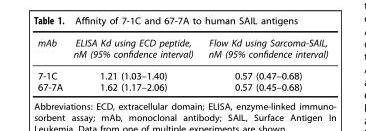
<table><thead><tr><td>mAb</td><td>ELISA Kd using ECD peptide, nM (95% confidence interval)</td><td>Flow Kd using Sarcoma-SAIL, nM (95% confidence interval)</td></tr></thead><tbody><tr><td>7-1C</td><td>1.21 (1.03–1.40)</td><td>0.57 (0.47–0.68)</td></tr><tr><td>67-7A</td><td>1.62 (1.17–2.06)</td><td>0.57 (0.45–0.68)</td></tr></tbody></table>